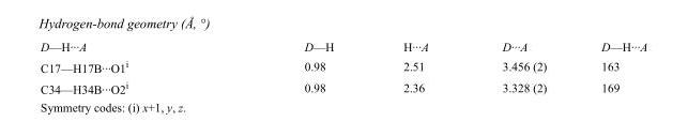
<table><tbody><tr><td>D—H···A</td><td>D—H</td><td>H···A</td><td>D···A</td><td>D—H···A</td></tr><tr><td>C17—H17B···O1<sup>i</sup></td><td>0.98</td><td>2.51</td><td>3.456 (2)</td><td>163</td></tr><tr><td>C34—H34B···O2<sup>i</sup></td><td>0.98</td><td>2.36</td><td>3.328 (2)</td><td>169</td></tr></tbody></table>